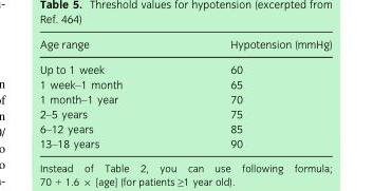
<table><thead><tr><td>Age range</td><td>Hypotension (mmHg)</td></tr></thead><tbody><tr><td>Up to 1 week</td><td>60</td></tr><tr><td>1 week–1 month</td><td>65</td></tr><tr><td>1 month–1 year</td><td>70</td></tr><tr><td>2–5 years</td><td>75</td></tr><tr><td>6–12 years</td><td>85</td></tr><tr><td>13–18 years</td><td>90</td></tr></tbody></table>